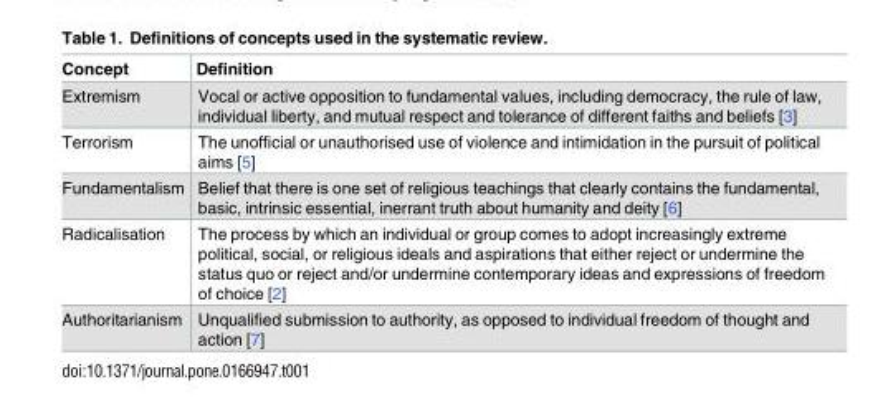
<table><thead><tr><td>Concept</td><td>Definition</td></tr></thead><tbody><tr><td>Extremism</td><td>Vocal or active opposition to fundamental values, including democracy, the rule of law, individual liberty, and mutual respect and tolerance of different faiths and beliefs [3]</td></tr><tr><td>Terrorism</td><td>The unofficial or unauthorised use of violence and intimidation in the pursuit of political aims [5]</td></tr><tr><td>Fundamentalism</td><td>Belief that there is one set of religious teachings that clearly contains the fundamental, basic, intrinsic essential, inerrant truth about humanity and deity [6]</td></tr><tr><td>Radicalisation</td><td>The process by which an individual or group comes to adopt increasingly extreme political, social, or religious ideals and aspirations that either reject or undermine the status quo or reject and/or undermine contemporary ideas and expressions of freedom of choice [2]</td></tr><tr><td>Authoritarianism</td><td>Unqualified submission to authority, as opposed to individual freedom of thought and action [7]</td></tr></tbody></table>